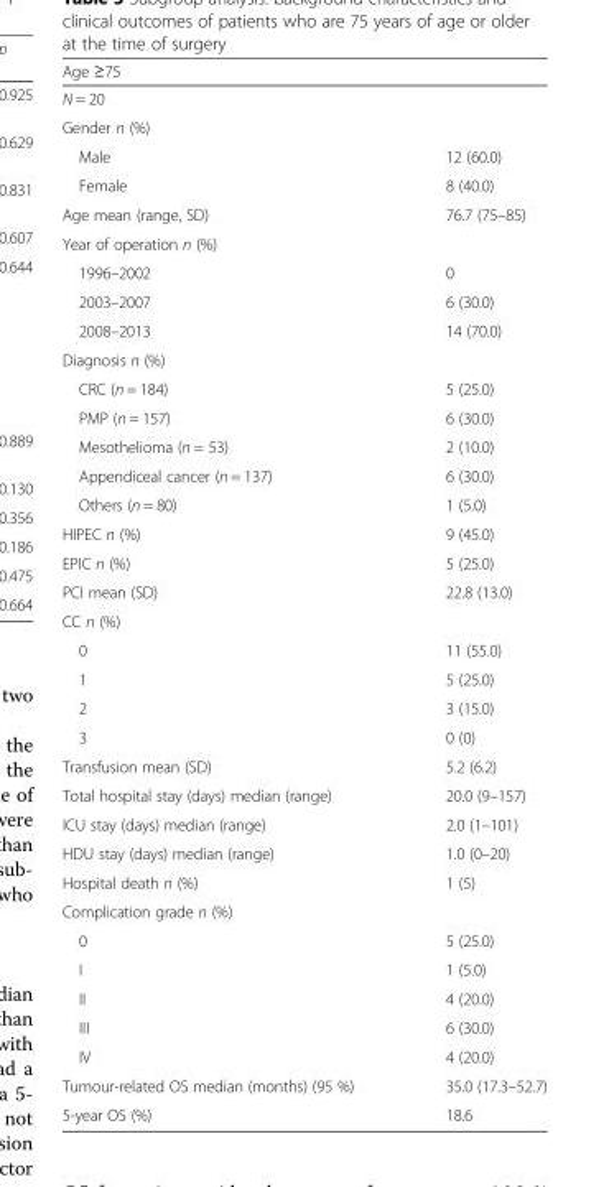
<table><thead><tr><td>Age ≥75</td><td></td></tr></thead><tbody><tr><td colspan="2">N = 20</td></tr><tr><td colspan="2">Gender n (%)</td></tr><tr><td>Male</td><td>12 (60.0)</td></tr><tr><td>Female</td><td>8 (40.0)</td></tr><tr><td>Age mean (range, SD)</td><td>76.7 (75–85)</td></tr><tr><td colspan="2">Year of operation n (%)</td></tr><tr><td>1996–2002</td><td>0</td></tr><tr><td>2003–2007</td><td>6 (30.0)</td></tr><tr><td>2008–2013</td><td>14 (70.0)</td></tr><tr><td colspan="2">Diagnosis n (%)</td></tr><tr><td>CRC (n = 184)</td><td>5 (25.0)</td></tr><tr><td>PMP (n = 157)</td><td>6 (30.0)</td></tr><tr><td>Mesothelioma (n = 53)</td><td>2 (10.0)</td></tr><tr><td>Appendiceal cancer (n = 137)</td><td>6 (30.0)</td></tr><tr><td>Others (n = 80)</td><td>1 (5.0)</td></tr><tr><td>HIPEC n (%)</td><td>9 (45.0)</td></tr><tr><td>EPIC n (%)</td><td>5 (25.0)</td></tr><tr><td>PCI mean (SD)</td><td>22.8 (13.0)</td></tr><tr><td colspan="2">CC n (%)</td></tr><tr><td>0</td><td>11 (55.0)</td></tr><tr><td>1</td><td>5 (25.0)</td></tr><tr><td>2</td><td>3 (15.0)</td></tr><tr><td>3</td><td>0 (0)</td></tr><tr><td>Transfusion mean (SD)</td><td>5.2 (6.2)</td></tr><tr><td>Total hospital stay (days) median (range)</td><td>20.0 (9–157)</td></tr><tr><td>ICU stay (days) median (range)</td><td>2.0 (1–101)</td></tr><tr><td>HDU stay (days) median (range)</td><td>1.0 (0–20)</td></tr><tr><td>Hospital death n (%)</td><td>1 (5)</td></tr><tr><td colspan="2">Complication grade n (%)</td></tr><tr><td>0</td><td>5 (25.0)</td></tr><tr><td>I</td><td>1 (5.0)</td></tr><tr><td>II</td><td>4 (20.0)</td></tr><tr><td>III</td><td>6 (30.0)</td></tr><tr><td>IV</td><td>4 (20.0)</td></tr><tr><td>Tumour-related OS median (months) (95 %)</td><td>35.0 (17.3–52.7)</td></tr><tr><td>5-year OS (%)</td><td>18.6</td></tr></tbody></table>